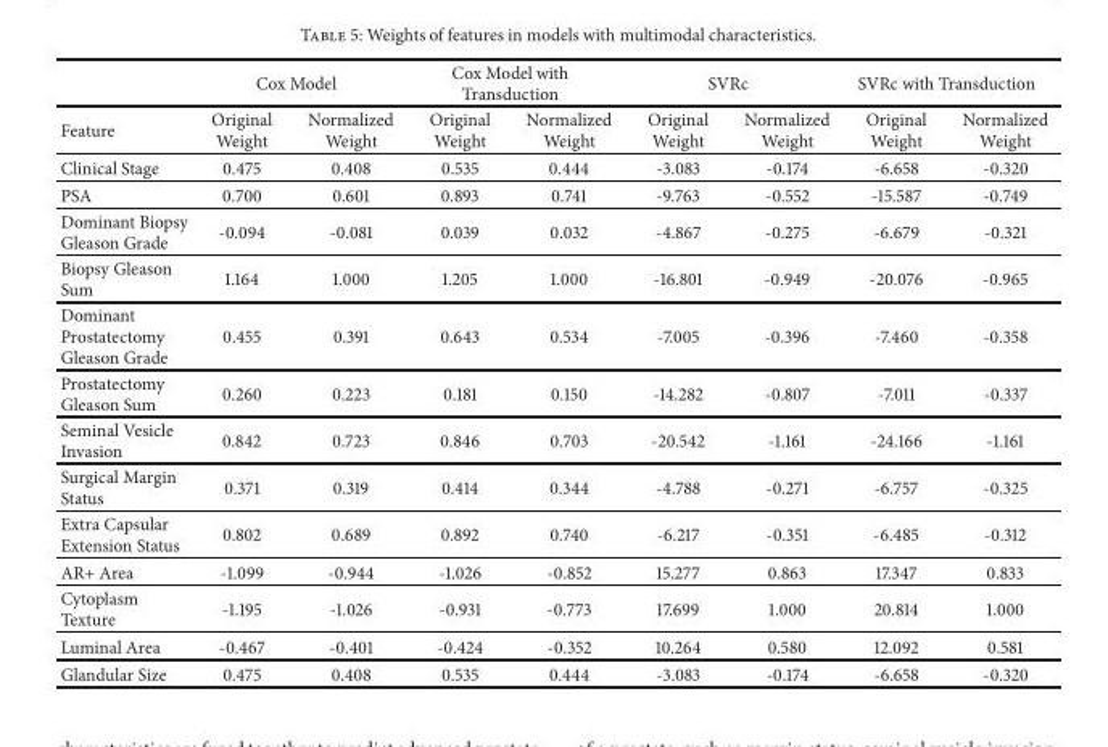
<table><thead><tr><td rowspan="2">Feature</td><td colspan="2">Cox Model</td><td colspan="2">Cox Model with Transduction</td><td colspan="2">SVRc</td><td colspan="2">SVRc with Transduction</td></tr><tr><td>Original Weight</td><td>Normalized Weight</td><td>Original Weight</td><td>Normalized Weight</td><td>Original Weight</td><td>Normalized Weight</td><td>Original Weight</td><td>Normalized Weight</td></tr></thead><tbody><tr><td>Clinical Stage</td><td>0.475</td><td>0.408</td><td>0.535</td><td>0.444</td><td>-3.083</td><td>-0.174</td><td>-6.658</td><td>-0.320</td></tr><tr><td>PSA</td><td>0.700</td><td>0.601</td><td>0.893</td><td>0.741</td><td>-9.763</td><td>-0.552</td><td>-15.587</td><td>-0.749</td></tr><tr><td>Dominant Biopsy Gleason Grade</td><td>-0.094</td><td>-0.081</td><td>0.039</td><td>0.032</td><td>-4.867</td><td>-0.275</td><td>-6.679</td><td>-0.321</td></tr><tr><td>Biopsy Gleason Sum</td><td>1.164</td><td>1.000</td><td>1.205</td><td>1.000</td><td>-16.801</td><td>-0.949</td><td>-20.076</td><td>-0.965</td></tr><tr><td>Dominant Prostatectomy Gleason Grade</td><td>0.455</td><td>0.391</td><td>0.643</td><td>0.534</td><td>-7.005</td><td>-0.396</td><td>-7.460</td><td>-0.358</td></tr><tr><td>Prostatectomy Gleason Sum</td><td>0.260</td><td>0.223</td><td>0.181</td><td>0.150</td><td>-14.282</td><td>-0.807</td><td>-7.011</td><td>-0.337</td></tr><tr><td>Seminal Vesicle Invasion</td><td>0.842</td><td>0.723</td><td>0.846</td><td>0.703</td><td>-20.542</td><td>-1.161</td><td>-24.166</td><td>-1.161</td></tr><tr><td>Surgical Margin Status</td><td>0.371</td><td>0.319</td><td>0.414</td><td>0.344</td><td>-4.788</td><td>-0.271</td><td>-6.757</td><td>-0.325</td></tr><tr><td>Extra Capsular Extension Status</td><td>0.802</td><td>0.689</td><td>0.892</td><td>0.740</td><td>-6.217</td><td>-0.351</td><td>-6.485</td><td>-0.312</td></tr><tr><td>AR+ Area</td><td>-1.099</td><td>-0.944</td><td>-1.026</td><td>-0.852</td><td>15.277</td><td>0.863</td><td>17.347</td><td>0.833</td></tr><tr><td>Cytoplasm Texture</td><td>-1.195</td><td>-1.026</td><td>-0.931</td><td>-0.773</td><td>17.699</td><td>1.000</td><td>20.814</td><td>1.000</td></tr><tr><td>Luminal Area</td><td>-0.467</td><td>-0.401</td><td>-0.424</td><td>-0.352</td><td>10.264</td><td>0.580</td><td>12.092</td><td>0.581</td></tr><tr><td>Glandular Size</td><td>0.475</td><td>0.408</td><td>0.535</td><td>0.444</td><td>-3.083</td><td>-0.174</td><td>-6.658</td><td>-0.320</td></tr></tbody></table>